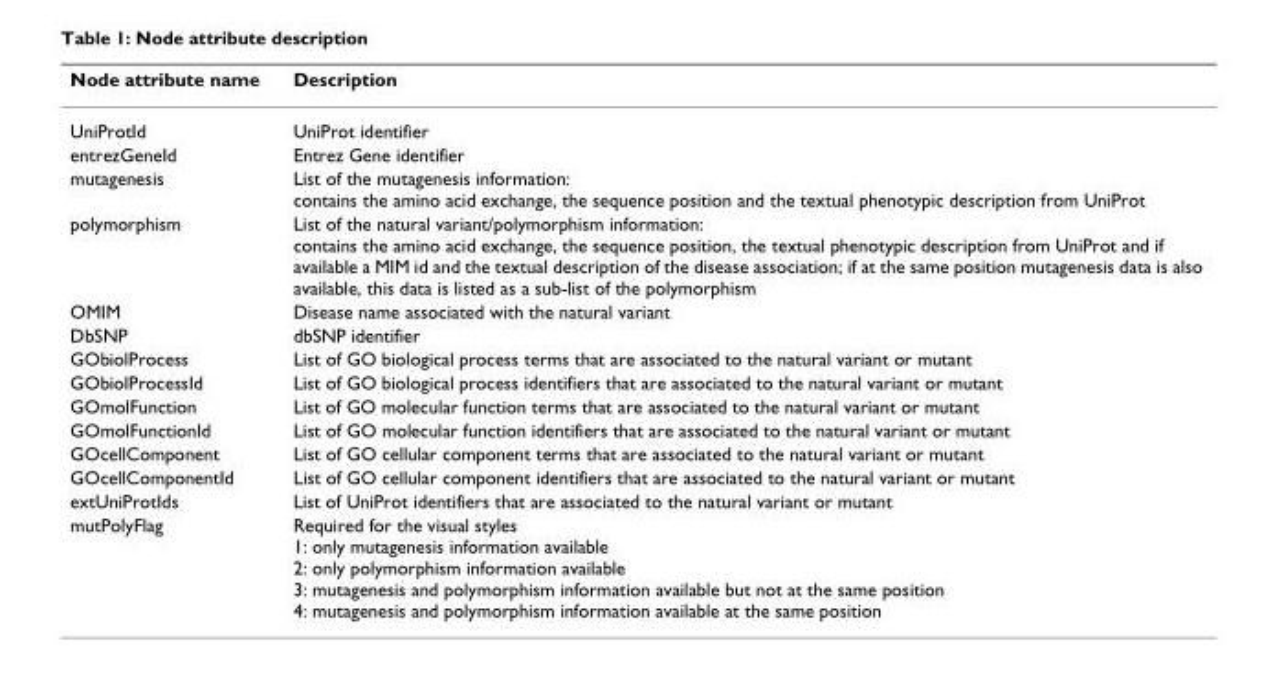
<table><thead><tr><td>Node attribute name</td><td>Description</td></tr></thead><tbody><tr><td>UniProtId</td><td>UniProt identifier</td></tr><tr><td>entrezGeneId</td><td>Entrez Gene identifier</td></tr><tr><td>mutagenesis</td><td>List of the mutagenesis information: contains the amino acid exchange, the sequence position and the textual phenotypic description from UniProt</td></tr><tr><td>polymorphism</td><td>List of the natural variant/polymorphism information: contains the amino acid exchange, the sequence position, the textual phenotypic description from UniProt and if available a MIM id and the textual description of the disease association; if at the same position mutagenesis data is also available, this data is listed as a sub-list of the polymorphism</td></tr><tr><td>OMIM</td><td>Disease name associated with the natural variant</td></tr><tr><td>DbSNP</td><td>dbSNP identifier</td></tr><tr><td>GObiolProcess</td><td>List of GO biological process terms that are associated to the natural variant or mutant</td></tr><tr><td>GObiolProcessId</td><td>List of GO biological process identifiers that are associated to the natural variant or mutant</td></tr><tr><td>GOmolFunction</td><td>List of GO molecular function terms that are associated to the natural variant or mutant</td></tr><tr><td>GOmolFunctionId</td><td>List of GO molecular function identifiers that are associated to the natural variant or mutant</td></tr><tr><td>GOcellComponent</td><td>List of GO cellular component terms that are associated to the natural variant or mutant</td></tr><tr><td>GOcellComponentId</td><td>List of GO cellular component identifiers that are associated to the natural variant or mutant</td></tr><tr><td>extUniProtIds</td><td>List of UniProt identifiers that are associated to the natural variant or mutant</td></tr><tr><td>mutPolyFlag</td><td>Required for the visual styles 1: only mutagenesis information available 2: only polymorphism information available 3: mutagenesis and polymorphism information available but not at the same position 4: mutagenesis and polymorphism information available at the same position</td></tr></tbody></table>